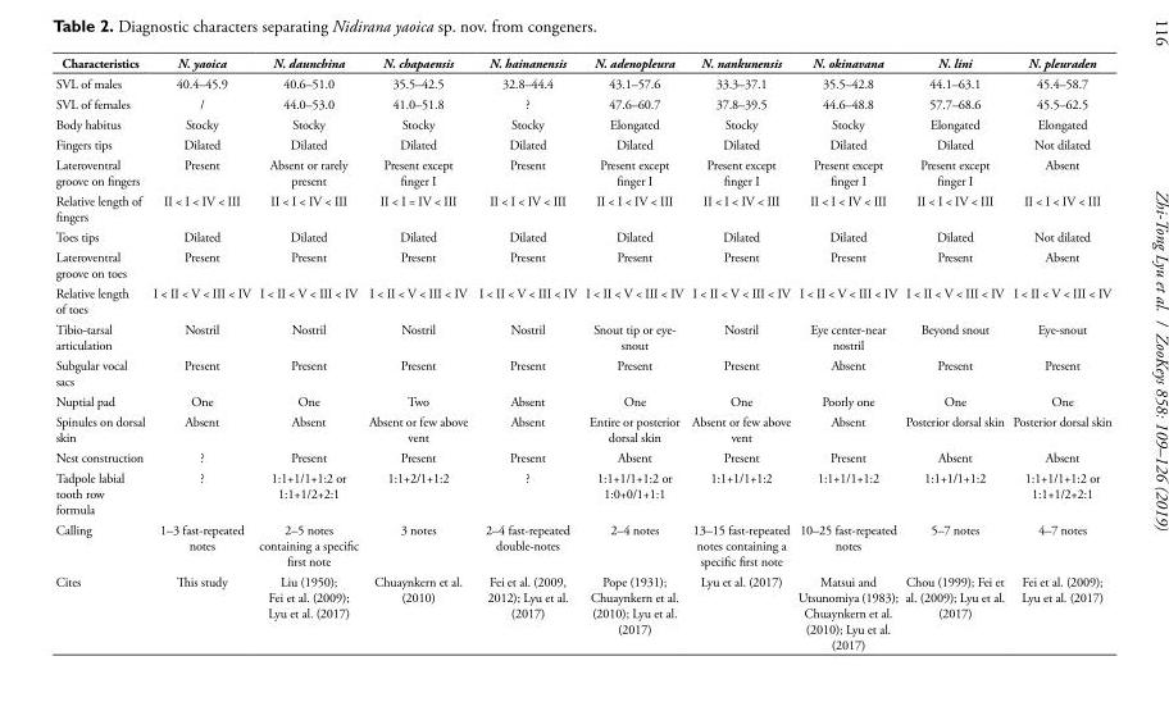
<table><thead><tr><td>Characteristics</td><td>N. yaoica</td><td>N. daunchina</td><td>N. chapaensis</td><td>N. hainanensis</td><td>N. adenopleura</td><td>N. nankunensis</td><td>N. okinavana</td><td>N. lini</td><td>N. pleuraden</td></tr></thead><tbody><tr><td>SVL of males</td><td>40.4–45.9</td><td>40.6–51.0</td><td>35.5–42.5</td><td>32.8–44.4</td><td>43.1–57.6</td><td>33.3–37.1</td><td>35.5–42.8</td><td>44.1–63.1</td><td>45.4–58.7</td></tr><tr><td>SVL of females</td><td>/</td><td>44.0–53.0</td><td>41.0–51.8</td><td>?</td><td>47.6–60.7</td><td>37.8–39.5</td><td>44.6–48.8</td><td>57.7–68.6</td><td>45.5–62.5</td></tr><tr><td>Body habitus</td><td>Stocky</td><td>Stocky</td><td>Stocky</td><td>Stocky</td><td>Elongated</td><td>Stocky</td><td>Stocky</td><td>Elongated</td><td>Elongated</td></tr><tr><td>Fingers tips</td><td>Dilated</td><td>Dilated</td><td>Dilated</td><td>Dilated</td><td>Dilated</td><td>Dilated</td><td>Dilated</td><td>Dilated</td><td>Not dilated</td></tr><tr><td>Lateroventral groove on fingers</td><td>Present</td><td>Absent or rarely present</td><td>Present except finger I</td><td>Present</td><td>Present except finger I</td><td>Present except finger I</td><td>Present except finger I</td><td>Present except finger I</td><td>Absent</td></tr><tr><td>Relative length of fingers</td><td>II &lt; I &lt; IV &lt; III</td><td>II &lt; I &lt; IV &lt; III</td><td>II &lt; I = IV &lt; III</td><td>II &lt; I &lt; IV &lt; III</td><td>II &lt; I &lt; IV &lt; III</td><td>II &lt; I &lt; IV &lt; III</td><td>II &lt; I &lt; IV &lt; III</td><td>II &lt; I &lt; IV &lt; III</td><td>II &lt; I &lt; IV &lt; III</td></tr><tr><td>Toes tips</td><td>Dilated</td><td>Dilated</td><td>Dilated</td><td>Dilated</td><td>Dilated</td><td>Dilated</td><td>Dilated</td><td>Dilated</td><td>Not dilated</td></tr><tr><td>Lateroventral groove on toes</td><td>Present</td><td>Present</td><td>Present</td><td>Present</td><td>Present</td><td>Present</td><td>Present</td><td>Present</td><td>Absent</td></tr><tr><td>Relative length of toes</td><td>I &lt; II &lt; V &lt; III &lt; IV</td><td>I &lt; II &lt; V &lt; III &lt; IV</td><td>I &lt; II &lt; V &lt; III &lt; IV</td><td>I &lt; II &lt; V &lt; III &lt; IV</td><td>I &lt; II &lt; V &lt; III &lt; IV</td><td>I &lt; II &lt; V &lt; III &lt; IV</td><td>I &lt; II &lt; V &lt; III &lt; IV</td><td>I &lt; II &lt; V &lt; III &lt; IV</td><td>I &lt; II &lt; V &lt; III &lt; IV</td></tr><tr><td>Tibio-tarsal articulation</td><td>Nostril</td><td>Nostril</td><td>Nostril</td><td>Nostril</td><td>Snout tip or eye- snout</td><td>Nostril</td><td>Eye center-near nostril</td><td>Beyond snout</td><td>Eye-snout</td></tr><tr><td>Subgular vocal sacs</td><td>Present</td><td>Present</td><td>Present</td><td>Present</td><td>Present</td><td>Present</td><td>Absent</td><td>Present</td><td>Present</td></tr><tr><td>Nuptial pad</td><td>One</td><td>One</td><td>Two</td><td>Absent</td><td>One</td><td>One</td><td>Poorly one</td><td>One</td><td>One</td></tr><tr><td>Spinules on dorsal skin</td><td>Absent</td><td>Absent</td><td>Absent or few above vent</td><td>Absent</td><td>Entire or posterior dorsal skin</td><td>Absent or few above vent</td><td>Absent</td><td>Posterior dorsal skin</td><td>Posterior dorsal skin</td></tr><tr><td>Nest construction</td><td>?</td><td>Present</td><td>Present</td><td>Present</td><td>Absent</td><td>Present</td><td>Present</td><td>Absent</td><td>Absent</td></tr><tr><td>Tadpole labial tooth row formula</td><td>?</td><td>1:1+1/1+1:2 or 1:1+1/2+2:1</td><td>1:1+2/1+1:2</td><td>?</td><td>1:1+1/1+1:2 or 1:0+0/1+1:1</td><td>1:1+1/1+1:2</td><td>1:1+1/1+1:2</td><td>1:1+1/1+1:2</td><td>1:1+1/1+1:2 or 1:1+1/2+2:1</td></tr><tr><td>Calling</td><td>1–3 fast-repeated notes</td><td>2–5 notes containing a specific first note</td><td>3 notes</td><td>2–4 fast-repeated double-notes</td><td>2–4 notes</td><td>13–15 fast-repeated notes containing a specific first note</td><td>10–25 fast-repeated notes</td><td>5–7 notes</td><td>4–7 notes</td></tr><tr><td>Cites</td><td>This study</td><td>Liu (1950); Fei et al. (2009); Lyu et al. (2017)</td><td>Chuaynkern et al. (2010)</td><td>Fei et al. (2009, 2012); Lyu et al. (2017)</td><td>Pope (1931); Chuaynkern et al. (2010); Lyu et al. (2017)</td><td>Lyu et al. (2017)</td><td>Matsui and Utsunomiya (1983); Chuaynkern et al. (2010); Lyu et al. (2017)</td><td>Chou (1999); Fei et al. (2009); Lyu et al. (2017)</td><td>Fei et al. (2009); Lyu et al. (2017)</td></tr></tbody></table>